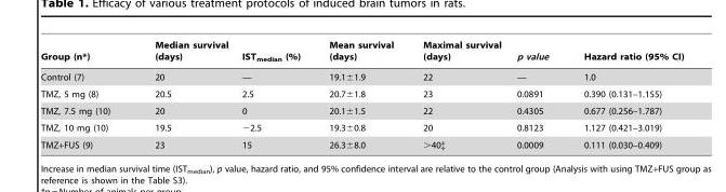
<table><thead><tr><td>Group (n*)</td><td>Median survival (days)</td><td>IST<sub>median</sub> (%)</td><td>Mean survival (days)</td><td>Maximal survival (days)</td><td>p value</td><td>Hazard ratio (95% CI)</td></tr></thead><tbody><tr><td>Control (7)</td><td>20</td><td>—</td><td>19.1±1.9</td><td>22</td><td>—</td><td>1.0</td></tr><tr><td>TMZ, 5 mg (8)</td><td>20.5</td><td>2.5</td><td>20.7±1.8</td><td>23</td><td>0.0891</td><td>0.390 (0.131–1.155)</td></tr><tr><td>TMZ, 7.5 mg (10)</td><td>20</td><td>0</td><td>20.1±1.5</td><td>22</td><td>0.4305</td><td>0.677 (0.256–1.787)</td></tr><tr><td>TMZ, 10 mg (10)</td><td>19.5</td><td>−2.5</td><td>19.3±0.8</td><td>20</td><td>0.8123</td><td>1.127 (0.421–3.019)</td></tr><tr><td>TMZ+FUS (9)</td><td>23</td><td>15</td><td>26.3±8.0</td><td>&gt;40‡</td><td>0.0009</td><td>0.111 (0.030–0.409)</td></tr></tbody></table>